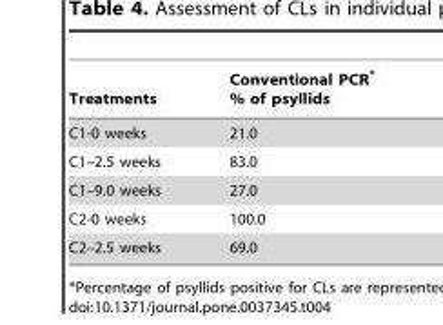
<table><thead><tr><td>Treatments</td><td>Conventional PCR* % of psyllids</td></tr></thead><tbody><tr><td>C1-0 weeks</td><td>21.0</td></tr><tr><td>C1–2.5 weeks</td><td>83.0</td></tr><tr><td>C1–9.0 weeks</td><td>27.0</td></tr><tr><td>C2-0 weeks</td><td>100.0</td></tr><tr><td>C2–2.5 weeks</td><td>69.0</td></tr></tbody></table>